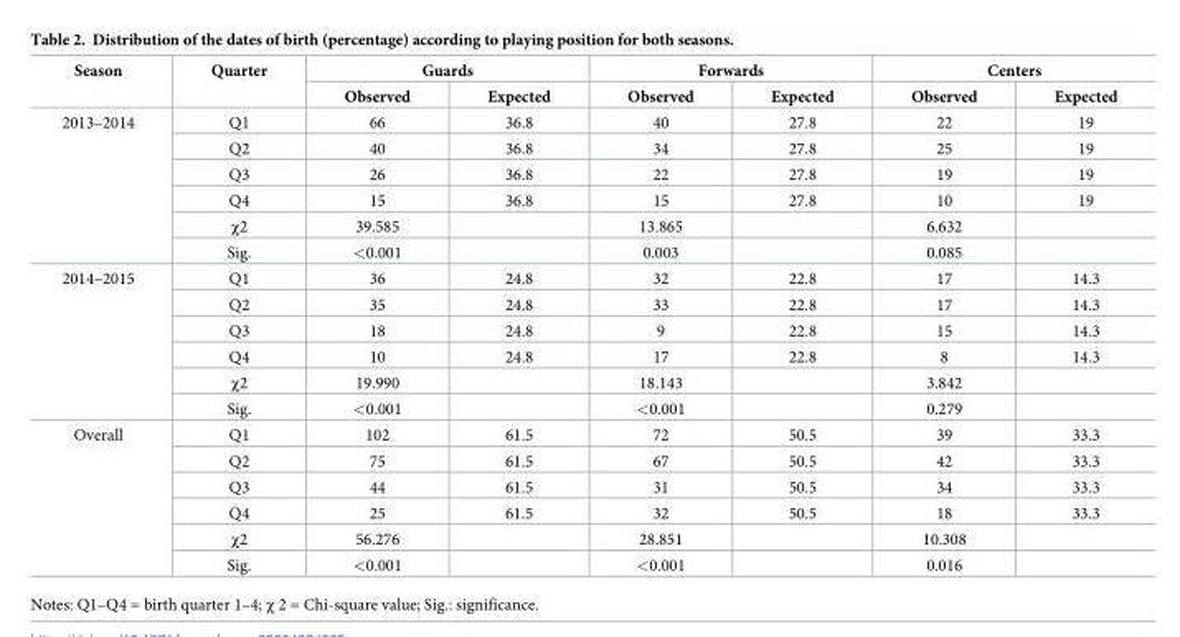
<table><thead><tr><td rowspan="2">Season</td><td rowspan="2">Quarter</td><td colspan="2">Guards</td><td colspan="2">Forwards</td><td colspan="2">Centers</td></tr><tr><td>Observed</td><td>Expected</td><td>Observed</td><td>Expected</td><td>Observed</td><td>Expected</td></tr></thead><tbody><tr><td rowspan="6">2013–2014</td><td>Q1</td><td>66</td><td>36.8</td><td>40</td><td>27.8</td><td>22</td><td>19</td></tr><tr><td>Q2</td><td>40</td><td>36.8</td><td>34</td><td>27.8</td><td>25</td><td>19</td></tr><tr><td>Q3</td><td>26</td><td>36.8</td><td>22</td><td>27.8</td><td>19</td><td>19</td></tr><tr><td>Q4</td><td>15</td><td>36.8</td><td>15</td><td>27.8</td><td>10</td><td>19</td></tr><tr><td>χ2</td><td>39.585</td><td></td><td>13.865</td><td></td><td>6.632</td><td></td></tr><tr><td>Sig.</td><td>&lt;0.001</td><td></td><td>0.003</td><td></td><td>0.085</td><td></td></tr><tr><td rowspan="6">2014–2015</td><td>Q1</td><td>36</td><td>24.8</td><td>32</td><td>22.8</td><td>17</td><td>14.3</td></tr><tr><td>Q2</td><td>35</td><td>24.8</td><td>33</td><td>22.8</td><td>17</td><td>14.3</td></tr><tr><td>Q3</td><td>18</td><td>24.8</td><td>9</td><td>22.8</td><td>15</td><td>14.3</td></tr><tr><td>Q4</td><td>10</td><td>24.8</td><td>17</td><td>22.8</td><td>8</td><td>14.3</td></tr><tr><td>χ2</td><td>19.990</td><td></td><td>18.143</td><td></td><td>3.842</td><td></td></tr><tr><td>Sig.</td><td>&lt;0.001</td><td></td><td>&lt;0.001</td><td></td><td>0.279</td><td></td></tr><tr><td rowspan="6">Overall</td><td>Q1</td><td>102</td><td>61.5</td><td>72</td><td>50.5</td><td>39</td><td>33.3</td></tr><tr><td>Q2</td><td>75</td><td>61.5</td><td>67</td><td>50.5</td><td>42</td><td>33.3</td></tr><tr><td>Q3</td><td>44</td><td>61.5</td><td>31</td><td>50.5</td><td>34</td><td>33.3</td></tr><tr><td>Q4</td><td>25</td><td>61.5</td><td>32</td><td>50.5</td><td>18</td><td>33.3</td></tr><tr><td>χ2</td><td>56.276</td><td></td><td>28.851</td><td></td><td>10.308</td><td></td></tr><tr><td>Sig.</td><td>&lt;0.001</td><td></td><td>&lt;0.001</td><td></td><td>0.016</td><td></td></tr></tbody></table>